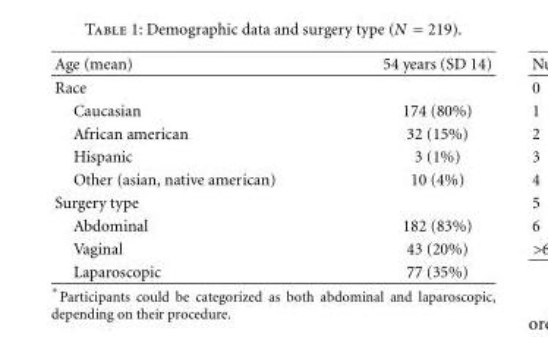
<table><thead><tr><td>Age (mean)</td><td>54 years (SD 14)</td></tr></thead><tbody><tr><td colspan="2">Race</td></tr><tr><td>Caucasian</td><td>174 (80%)</td></tr><tr><td>African american</td><td>32 (15%)</td></tr><tr><td>Hispanic</td><td>3 (1%)</td></tr><tr><td>Other (asian, native american)</td><td>10 (4%)</td></tr><tr><td colspan="2">Surgery type</td></tr><tr><td>Abdominal</td><td>182 (83%)</td></tr><tr><td>Vaginal</td><td>43 (20%)</td></tr><tr><td>Laparoscopic</td><td>77 (35%)</td></tr></tbody></table>